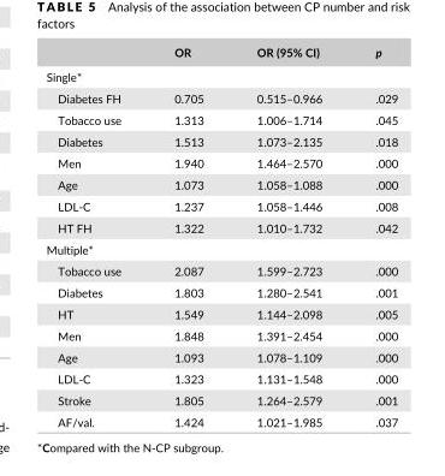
<table><thead><tr><td></td><td>OR</td><td>OR (95% CI)</td><td>p</td></tr></thead><tbody><tr><td colspan="4">Single*</td></tr><tr><td>Diabetes FH</td><td>0.705</td><td>0.515–0.966</td><td>.029</td></tr><tr><td>Tobacco use</td><td>1.313</td><td>1.006–1.714</td><td>.045</td></tr><tr><td>Diabetes</td><td>1.513</td><td>1.073–2.135</td><td>.018</td></tr><tr><td>Men</td><td>1.940</td><td>1.464–2.570</td><td>.000</td></tr><tr><td>Age</td><td>1.073</td><td>1.058–1.088</td><td>.000</td></tr><tr><td>LDL- C</td><td>1.237</td><td>1.058–1.446</td><td>.008</td></tr><tr><td>HT FH</td><td>1.322</td><td>1.010–1.732</td><td>.042</td></tr><tr><td colspan="4">Multiple*</td></tr><tr><td>Tobacco use</td><td>2.087</td><td>1.599–2.723</td><td>.000</td></tr><tr><td>Diabetes</td><td>1.803</td><td>1.280–2.541</td><td>.001</td></tr><tr><td>HT</td><td>1.549</td><td>1.144–2.098</td><td>.005</td></tr><tr><td>Men</td><td>1.848</td><td>1.391–2.454</td><td>.000</td></tr><tr><td>Age</td><td>1.093</td><td>1.078–1.109</td><td>.000</td></tr><tr><td>LDL- C</td><td>1.323</td><td>1.131–1.548</td><td>.000</td></tr><tr><td>Stroke</td><td>1.805</td><td>1.264–2.579</td><td>.001</td></tr><tr><td>AF/val.</td><td>1.424</td><td>1.021–1.985</td><td>.037</td></tr></tbody></table>